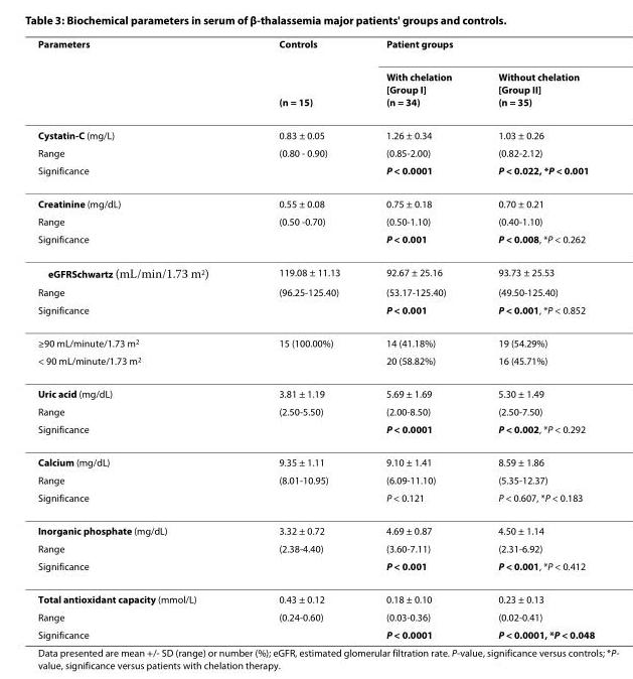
<table><thead><tr><td rowspan="2">Parameters</td><td rowspan="2">Controls (n = 15)</td><td colspan="2">Patient groups</td></tr><tr><td>With chelation [Group I] (n = 34)</td><td>Without chelation [Group II] (n = 35)</td></tr></thead><tbody><tr><td>Cystatin-C (mg/L)</td><td>0.83 ± 0.05</td><td>1.26 ± 0.34</td><td>1.03 ± 0.26</td></tr><tr><td>Range</td><td>(0.80 - 0.90)</td><td>(0.85-2.00)</td><td>(0.82-2.12)</td></tr><tr><td>Significance</td><td></td><td>P &lt; 0.0001</td><td>P &lt; 0.022, *P &lt; 0.001</td></tr><tr><td>Creatinine (mg/dL)</td><td>0.55 ± 0.08</td><td>0.75 ± 0.18</td><td>0.70 ± 0.21</td></tr><tr><td>Range</td><td>(0.50 -0.70)</td><td>(0.50-1.10)</td><td>(0.40-1.10)</td></tr><tr><td>Significance</td><td></td><td>P &lt; 0.001</td><td>P &lt; 0.008, *P &lt; 0.262</td></tr><tr><td>eGFR<sub>Schwartz</sub> (mL/min/1.73 m<sup>2</sup>)</td><td>119.08 ± 11.13</td><td>92.67 ± 25.16</td><td>93.73 ± 25.53</td></tr><tr><td>Range</td><td>(96.25-125.40)</td><td>(53.17-125.40)</td><td>(49.50-125.40)</td></tr><tr><td>Significance</td><td></td><td>P &lt; 0.001</td><td>P &lt; 0.001, *P &lt; 0.852</td></tr><tr><td>≥90 mL/minute/1.73 m<sup>2</sup></td><td>15 (100.00%)</td><td>14 (41.18%)</td><td>19 (54.29%)</td></tr><tr><td>&lt; 90 mL/minute/1.73 m<sup>2</sup></td><td></td><td>20 (58.82%)</td><td>16 (45.71%)</td></tr><tr><td>Uric acid (mg/dL)</td><td>3.81 ± 1.19</td><td>5.69 ± 1.69</td><td>5.30 ± 1.49</td></tr><tr><td>Range</td><td>(2.50-5.50)</td><td>(2.00-8.50)</td><td>(2.50-7.50)</td></tr><tr><td>Significance</td><td></td><td>P &lt; 0.0001</td><td>P &lt; 0.002, *P &lt; 0.292</td></tr><tr><td>Calcium (mg/dL)</td><td>9.35 ± 1.11</td><td>9.10 ± 1.41</td><td>8.59 ± 1.86</td></tr><tr><td>Range</td><td>(8.01-10.95)</td><td>(6.09-11.10)</td><td>(5.35-12.37)</td></tr><tr><td>Significance</td><td></td><td>P &lt; 0.121</td><td>P &lt; 0.607, *P &lt; 0.183</td></tr><tr><td>Inorganic phosphate (mg/dL)</td><td>3.32 ± 0.72</td><td>4.69 ± 0.87</td><td>4.50 ± 1.14</td></tr><tr><td>Range</td><td>(2.38-4.40)</td><td>(3.60-7.11)</td><td>(2.31-6.92)</td></tr><tr><td>Significance</td><td></td><td>P &lt; 0.001</td><td>P &lt; 0.001, *P &lt; 0.412</td></tr><tr><td>Total antioxidant capacity (mmol/L)</td><td>0.43 ± 0.12</td><td>0.18 ± 0.10</td><td>0.23 ± 0.13</td></tr><tr><td>Range</td><td>(0.24-0.60)</td><td>(0.03-0.36)</td><td>(0.02-0.41)</td></tr><tr><td>Significance</td><td></td><td>P &lt; 0.0001</td><td>P &lt; 0.0001, *P &lt; 0.048</td></tr></tbody></table>